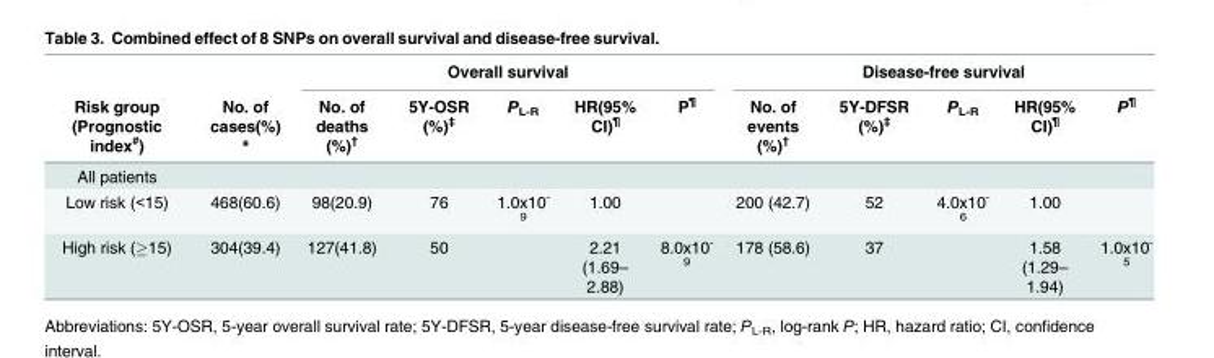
<table><thead><tr><td rowspan="2">Risk group (Prognostic index<sup>#</sup>)</td><td rowspan="2">No. of cases(%) *</td><td colspan="5">Overall survival</td><td colspan="5">Disease-free survival</td></tr><tr><td>No. of deaths (%)<sup>†</sup></td><td>5Y-OSR (%)<sup>‡</sup></td><td>P<sub>L-R</sub></td><td>HR(95% CI)<sup>¶</sup></td><td>P<sup>¶</sup></td><td>No. of events (%)<sup>†</sup></td><td>5Y-DFSR (%)<sup>‡</sup></td><td>P<sub>L-R</sub></td><td>HR(95% CI)<sup>¶</sup></td><td>P<sup>¶</sup></td></tr></thead><tbody><tr><td colspan="12">All patients</td></tr><tr><td>Low risk (&lt;15)</td><td>468(60.6)</td><td>98(20.9)</td><td>76</td><td>1.0x10<sup>- 9</sup></td><td>1.00</td><td></td><td>200 (42.7)</td><td>52</td><td>4.0x10<sup>- 6</sup></td><td>1.00</td><td></td></tr><tr><td>High risk (≥15)</td><td>304(39.4)</td><td>127(41.8)</td><td>50</td><td></td><td>2.21 (1.69– 2.88)</td><td>8.0x10<sup>- 9</sup></td><td>178 (58.6)</td><td>37</td><td></td><td>1.58 (1.29– 1.94)</td><td>1.0x10<sup>- 5</sup></td></tr></tbody></table>